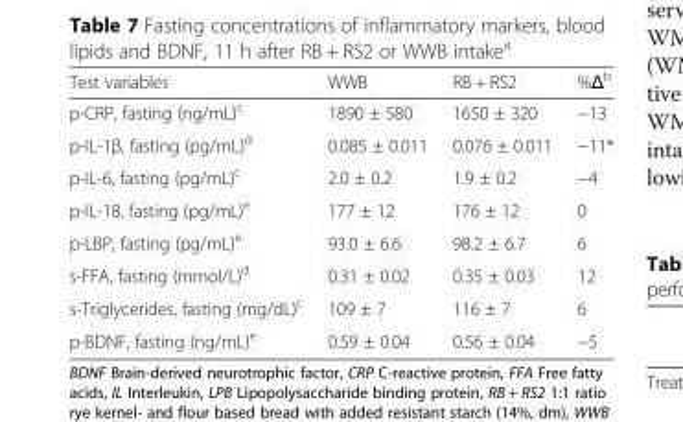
<table><thead><tr><td>Test variables</td><td>WWB</td><td>RB + RS2</td><td>%Δ<sup>b</sup></td></tr></thead><tbody><tr><td>p-CRP, fasting (ng/mL)<sup>c</sup></td><td>1890 ± 580</td><td>1650 ± 320</td><td>−13</td></tr><tr><td>p-IL-1β, fasting (pg/mL)<sup>d</sup></td><td>0.085 ± 0.011</td><td>0.076 ± 0.011</td><td>−11*</td></tr><tr><td>p-IL-6, fasting (pg/mL)<sup>c</sup></td><td>2.0 ± 0.2</td><td>1.9 ± 0.2</td><td>−4</td></tr><tr><td>p-IL-18, fasting (pg/mL)<sup>e</sup></td><td>177 ± 12</td><td>176 ± 12</td><td>0</td></tr><tr><td>p-LBP, fasting (pg/mL)<sup>e</sup></td><td>93.0 ± 6.6</td><td>98.2 ± 6.7</td><td>6</td></tr><tr><td>s-FFA, fasting (mmol/L)<sup>d</sup></td><td>0.31 ± 0.02</td><td>0.35 ± 0.03</td><td>12</td></tr><tr><td>s-Triglycerides, fasting (mg/dL)<sup>c</sup></td><td>109 ± 7</td><td>116 ± 7</td><td>6</td></tr><tr><td>p-BDNF, fasting (ng/mL)<sup>e</sup></td><td>0.59 ± 0.04</td><td>0.56 ± 0.04</td><td>−5</td></tr></tbody></table>